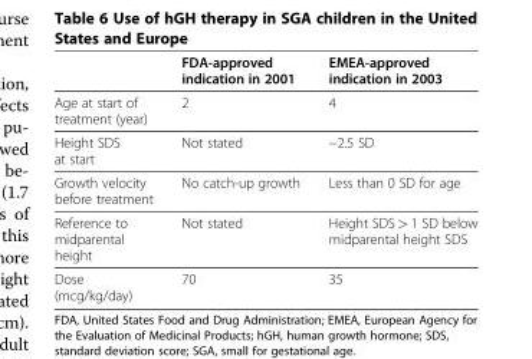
<table><thead><tr><td></td><td>FDA-approved indication in 2001</td><td>EMEA-approved indication in 2003</td></tr></thead><tbody><tr><td>Age at start of treatment (year)</td><td>2</td><td>4</td></tr><tr><td>Height SDS at start</td><td>Not stated</td><td>−2.5 SD</td></tr><tr><td>Growth velocity before treatment</td><td>No catch-up growth</td><td>Less than 0 SD for age</td></tr><tr><td>Reference to midparental height</td><td>Not stated</td><td>Height SDS &gt; 1 SD below midparental height SDS</td></tr><tr><td>Dose (mcg/kg/day)</td><td>70</td><td>35</td></tr></tbody></table>